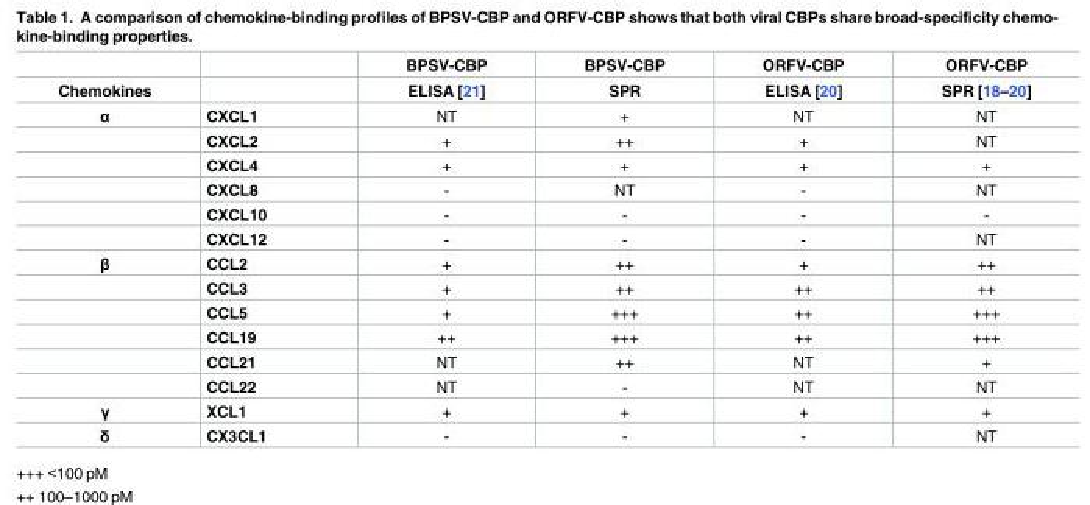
<table><thead><tr><td rowspan="2">Chemokines</td><td rowspan="2"></td><td rowspan="2">BPSV-CBP ELISA [21]</td><td rowspan="2">BPSV-CBP SPR</td><td rowspan="2">ORFV-CBP ELISA [20]</td><td rowspan="2">ORFV-CBP SPR [18–20]</td></tr><tr></tr></thead><tbody><tr><td rowspan="6">α</td><td>CXCL1</td><td>NT</td><td>+</td><td>NT</td><td>NT</td></tr><tr><td>CXCL2</td><td>+</td><td>++</td><td>+</td><td>NT</td></tr><tr><td>CXCL4</td><td>+</td><td>+</td><td>+</td><td>+</td></tr><tr><td>CXCL8</td><td>-</td><td>NT</td><td>-</td><td>NT</td></tr><tr><td>CXCL10</td><td>-</td><td>-</td><td>-</td><td>-</td></tr><tr><td>CXCL12</td><td>-</td><td>-</td><td>-</td><td>NT</td></tr><tr><td rowspan="6">β</td><td>CCL2</td><td>+</td><td>++</td><td>+</td><td>++</td></tr><tr><td>CCL3</td><td>+</td><td>++</td><td>++</td><td>++</td></tr><tr><td>CCL5</td><td>+</td><td>+++</td><td>++</td><td>+++</td></tr><tr><td>CCL19</td><td>++</td><td>+++</td><td>++</td><td>+++</td></tr><tr><td>CCL21</td><td>NT</td><td>++</td><td>NT</td><td>+</td></tr><tr><td>CCL22</td><td>NT</td><td>-</td><td>NT</td><td>NT</td></tr><tr><td>γ</td><td>XCL1</td><td>+</td><td>+</td><td>+</td><td>+</td></tr><tr><td>δ</td><td>CX3CL1</td><td>-</td><td>-</td><td>-</td><td>NT</td></tr></tbody></table>